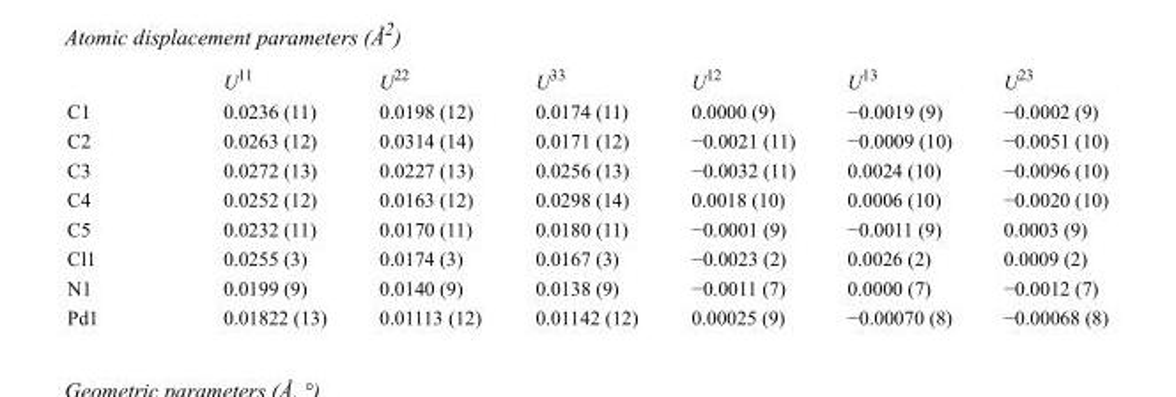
<table><thead><tr><td></td><td>U<sup>11</sup></td><td>U<sup>22</sup></td><td>U<sup>33</sup></td><td>U<sup>12</sup></td><td>U<sup>13</sup></td><td>U<sup>23</sup></td></tr></thead><tbody><tr><td>C1</td><td>0.0236 (11)</td><td>0.0198 (12)</td><td>0.0174 (11)</td><td>0.0000 (9)</td><td>−0.0019 (9)</td><td>−0.0002 (9)</td></tr><tr><td>C2</td><td>0.0263 (12)</td><td>0.0314 (14)</td><td>0.0171 (12)</td><td>−0.0021 (11)</td><td>−0.0009 (10)</td><td>−0.0051 (10)</td></tr><tr><td>C3</td><td>0.0272 (13)</td><td>0.0227 (13)</td><td>0.0256 (13)</td><td>−0.0032 (11)</td><td>0.0024 (10)</td><td>−0.0096 (10)</td></tr><tr><td>C4</td><td>0.0252 (12)</td><td>0.0163 (12)</td><td>0.0298 (14)</td><td>0.0018 (10)</td><td>0.0006 (10)</td><td>−0.0020 (10)</td></tr><tr><td>C5</td><td>0.0232 (11)</td><td>0.0170 (11)</td><td>0.0180 (11)</td><td>−0.0001 (9)</td><td>−0.0011 (9)</td><td>0.0003 (9)</td></tr><tr><td>Cl1</td><td>0.0255 (3)</td><td>0.0174 (3)</td><td>0.0167 (3)</td><td>−0.0023 (2)</td><td>0.0026 (2)</td><td>0.0009 (2)</td></tr><tr><td>N1</td><td>0.0199 (9)</td><td>0.0140 (9)</td><td>0.0138 (9)</td><td>−0.0011 (7)</td><td>0.0000 (7)</td><td>−0.0012 (7)</td></tr><tr><td>Pd1</td><td>0.01822 (13)</td><td>0.01113 (12)</td><td>0.01142 (12)</td><td>0.00025 (9)</td><td>−0.00070 (8)</td><td>−0.00068 (8)</td></tr></tbody></table>